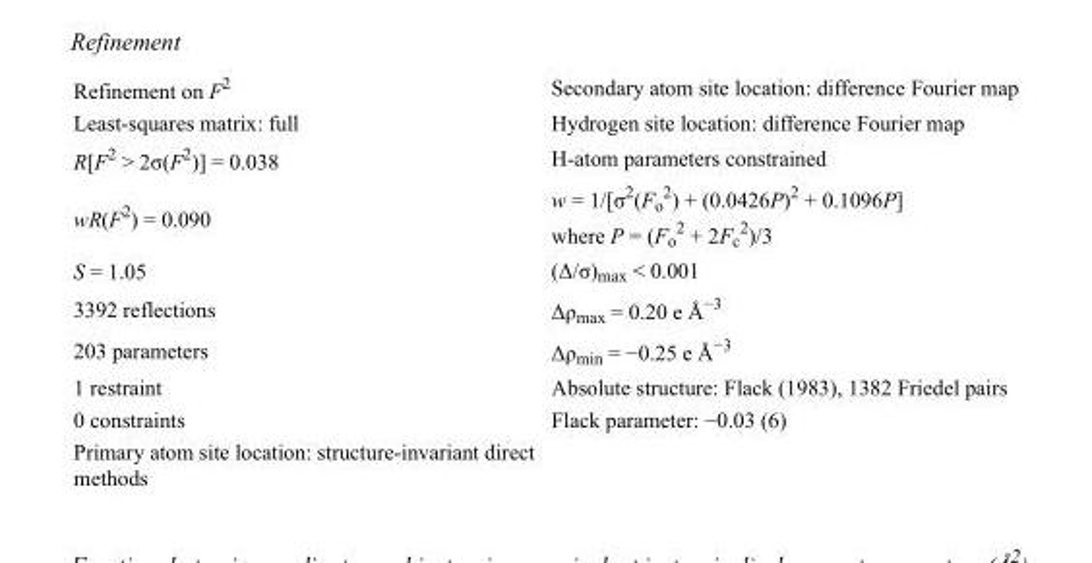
<table><tbody><tr><td>Refinement on F<sup>2</sup></td><td>Secondary atom site location: difference Fourier map</td></tr><tr><td>Least-squares matrix: full</td><td>Hydrogen site location: difference Fourier map</td></tr><tr><td>R[F<sup>2</sup> &gt; 2σ(F<sup>2</sup>)] = 0.038</td><td>H-atom parameters constrained</td></tr><tr><td>wR(F<sup>2</sup>) = 0.090</td><td>w = 1/[σ<sup>2</sup>(F<sub>o</sub> <sup>2</sup>) + (0.0426P)<sup>2</sup> + 0.1096P] where P = (F<sub>o</sub> <sup>2</sup> + 2F<sub>c</sub> <sup>2</sup>)/3</td></tr><tr><td>S = 1.05</td><td>(Δ/σ)<sub>max</sub> &lt; 0.001</td></tr><tr><td>3392 reflections</td><td>Δρ<sub>max</sub> = 0.20 e Å<sup>−3</sup></td></tr><tr><td>203 parameters</td><td>Δρ<sub>min</sub> = −0.25 e Å<sup>−3</sup></td></tr><tr><td>1 restraint</td><td>Absolute structure: Flack (1983), 1382 Friedel pairs</td></tr><tr><td>0 constraints</td><td>Flack parameter: −0.03 (6)</td></tr><tr><td>Primary atom site location: structure-invariant direct methods</td><td></td></tr></tbody></table>